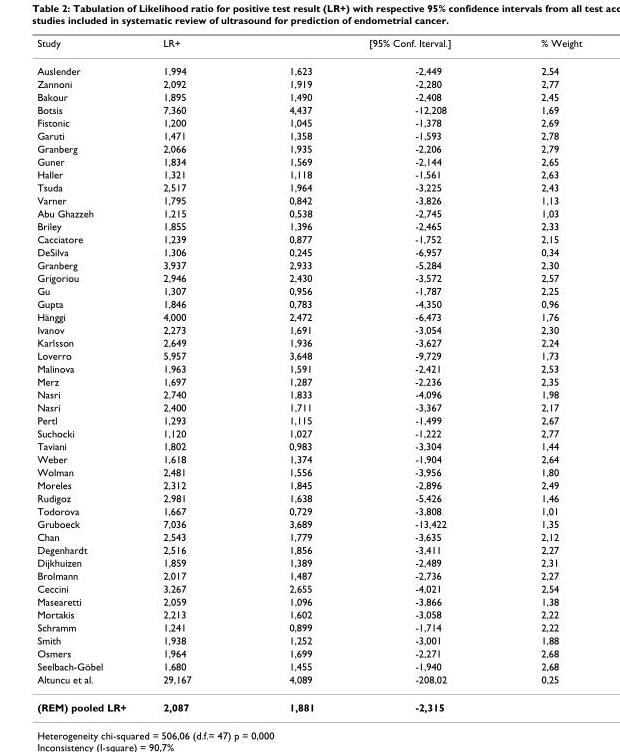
<table><thead><tr><td rowspan="2">Study Auslender</td><td rowspan="2">LR+ 1,994</td><td colspan="2">[95% Conf. Iterval.]</td><td rowspan="2">% Weight 2,54</td></tr><tr><td>1,623</td><td>-2,449</td></tr></thead><tbody><tr><td>Zannoni</td><td>2,092</td><td>1,919</td><td>-2,280</td><td>2,77</td></tr><tr><td>Bakour</td><td>1,895</td><td>1,490</td><td>-2,408</td><td>2,45</td></tr><tr><td>Botsis</td><td>7,360</td><td>4,437</td><td>-12,208</td><td>1,69</td></tr><tr><td>Fistonic</td><td>1,200</td><td>1,045</td><td>-1,378</td><td>2,69</td></tr><tr><td>Garuti</td><td>1,471</td><td>1,358</td><td>-1,593</td><td>2,78</td></tr><tr><td>Granberg</td><td>2,066</td><td>1,935</td><td>-2,206</td><td>2,79</td></tr><tr><td>Guner</td><td>1,834</td><td>1,569</td><td>-2,144</td><td>2,65</td></tr><tr><td>Haller</td><td>1,321</td><td>1,118</td><td>-1,561</td><td>2,63</td></tr><tr><td>Tsuda</td><td>2,517</td><td>1,964</td><td>-3,225</td><td>2,43</td></tr><tr><td>Varner</td><td>1,795</td><td>0,842</td><td>-3,826</td><td>1,13</td></tr><tr><td>Abu Ghazzeh</td><td>1,215</td><td>0,538</td><td>-2,745</td><td>1,03</td></tr><tr><td>Briley</td><td>1,855</td><td>1,396</td><td>-2,465</td><td>2,33</td></tr><tr><td>Cacciatore</td><td>1,239</td><td>0,877</td><td>-1,752</td><td>2,15</td></tr><tr><td>DeSilva</td><td>1,306</td><td>0,245</td><td>-6,957</td><td>0,34</td></tr><tr><td>Granberg</td><td>3,937</td><td>2,933</td><td>-5,284</td><td>2,30</td></tr><tr><td>Grigoriou</td><td>2,946</td><td>2,430</td><td>-3,572</td><td>2,57</td></tr><tr><td>Gu</td><td>1,307</td><td>0,956</td><td>-1,787</td><td>2,25</td></tr><tr><td>Gupta</td><td>1,846</td><td>0,783</td><td>-4,350</td><td>0,96</td></tr><tr><td>Hänggi</td><td>4,000</td><td>2,472</td><td>-6,473</td><td>1,76</td></tr><tr><td>Ivanov</td><td>2,273</td><td>1,691</td><td>-3,054</td><td>2,30</td></tr><tr><td>Karlsson</td><td>2,649</td><td>1,936</td><td>-3,627</td><td>2,24</td></tr><tr><td>Loverro</td><td>5,957</td><td>3,648</td><td>-9,729</td><td>1,73</td></tr><tr><td>Malinova</td><td>1,963</td><td>1,591</td><td>-2,421</td><td>2,53</td></tr><tr><td>Merz</td><td>1,697</td><td>1,287</td><td>-2,236</td><td>2,35</td></tr><tr><td>Nasri</td><td>2,740</td><td>1,833</td><td>-4,096</td><td>1,98</td></tr><tr><td>Nasri</td><td>2,400</td><td>1,711</td><td>-3,367</td><td>2,17</td></tr><tr><td>Pertl</td><td>1,293</td><td>1,115</td><td>-1,499</td><td>2,67</td></tr><tr><td>Suchocki</td><td>1,120</td><td>1,027</td><td>-1,222</td><td>2,77</td></tr><tr><td>Taviani</td><td>1,802</td><td>0,983</td><td>-3,304</td><td>1,44</td></tr><tr><td>Weber</td><td>1,618</td><td>1,374</td><td>-1,904</td><td>2,64</td></tr><tr><td>Wolman</td><td>2,481</td><td>1,556</td><td>-3,956</td><td>1,80</td></tr><tr><td>Moreles</td><td>2,312</td><td>1,845</td><td>-2,896</td><td>2,49</td></tr><tr><td>Rudigoz</td><td>2,981</td><td>1,638</td><td>-5,426</td><td>1,46</td></tr><tr><td>Todorova</td><td>1,667</td><td>0,729</td><td>-3,808</td><td>1,01</td></tr><tr><td>Gruboeck</td><td>7,036</td><td>3,689</td><td>-13,422</td><td>1,35</td></tr><tr><td>Chan</td><td>2,543</td><td>1,779</td><td>-3,635</td><td>2,12</td></tr><tr><td>Degenhardt</td><td>2,516</td><td>1,856</td><td>-3,411</td><td>2,27</td></tr><tr><td>Dijkhuizen</td><td>1,859</td><td>1,389</td><td>-2,489</td><td>2,31</td></tr><tr><td>Brolmann</td><td>2,017</td><td>1,487</td><td>-2,736</td><td>2,27</td></tr><tr><td>Ceccini</td><td>3,267</td><td>2,655</td><td>-4,021</td><td>2,54</td></tr><tr><td>Masearetti</td><td>2,059</td><td>1,096</td><td>-3,866</td><td>1,38</td></tr><tr><td>Mortakis</td><td>2,213</td><td>1,602</td><td>-3,058</td><td>2,22</td></tr><tr><td>Schramm</td><td>1,241</td><td>0,899</td><td>-1,714</td><td>2,22</td></tr><tr><td>Smith</td><td>1,938</td><td>1,252</td><td>-3,001</td><td>1,88</td></tr><tr><td>Osmers</td><td>1,964</td><td>1,699</td><td>-2,271</td><td>2,68</td></tr><tr><td>Seelbach-Göbel</td><td>1,680</td><td>1,455</td><td>-1,940</td><td>2,68</td></tr><tr><td>Altuncu et al.</td><td>29,167</td><td>4,089</td><td>-208,02</td><td>0,25</td></tr><tr><td>(REM) pooled LR+</td><td>2,087</td><td>1,881</td><td>-2,315</td><td></td></tr></tbody></table>